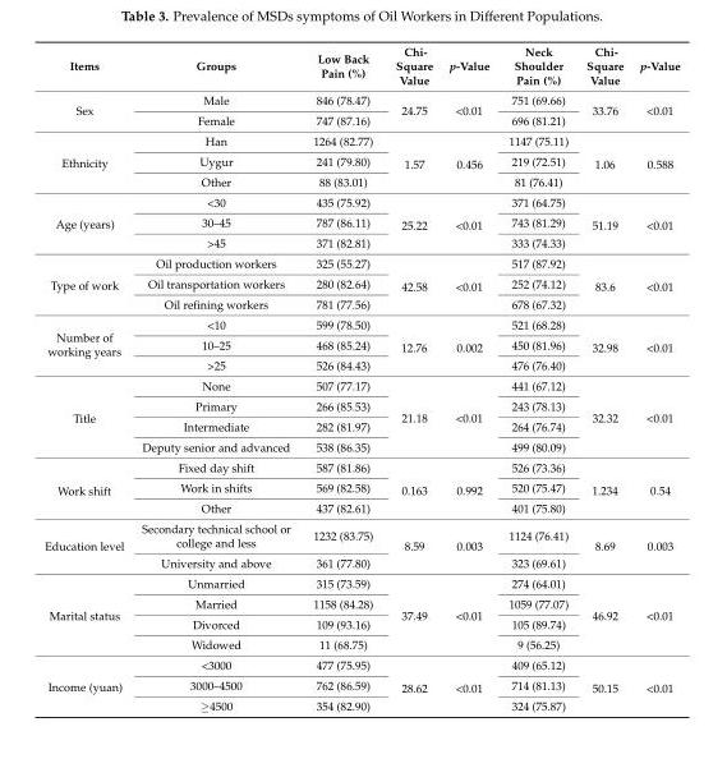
<table><thead><tr><td>Items</td><td>Groups</td><td>Low Back Pain (%)</td><td>Chi- Square Value</td><td>p-Value</td><td>Neck Shoulder Pain (%)</td><td>Chi- Square Value</td><td>p-Value</td></tr></thead><tbody><tr><td rowspan="2">Sex</td><td>Male</td><td>846 (78.47)</td><td rowspan="2">24.75</td><td rowspan="2">&lt;0.01</td><td>751 (69.66)</td><td rowspan="2">33.76</td><td rowspan="2">&lt;0.01</td></tr><tr><td>Female</td><td>747 (87.16)</td><td>696 (81.21)</td></tr><tr><td rowspan="3">Ethnicity</td><td>Han</td><td>1264 (82.77)</td><td rowspan="3">1.57</td><td rowspan="3">0.456</td><td>1147 (75.11)</td><td rowspan="3">1.06</td><td rowspan="3">0.588</td></tr><tr><td>Uygur</td><td>241 (79.80)</td><td>219 (72.51)</td></tr><tr><td>Other</td><td>88 (83.01)</td><td>81 (76.41)</td></tr><tr><td rowspan="3">Age (years)</td><td>&lt;30</td><td>435 (75.92)</td><td rowspan="3">25.22</td><td rowspan="3">&lt;0.01</td><td>371 (64.75)</td><td rowspan="3">51.19</td><td rowspan="3">&lt;0.01</td></tr><tr><td>30–45</td><td>787 (86.11)</td><td>743 (81.29)</td></tr><tr><td>&gt;45</td><td>371 (82.81)</td><td>333 (74.33)</td></tr><tr><td rowspan="3">Type of work</td><td>Oil production workers</td><td>325 (55.27)</td><td rowspan="3">42.58</td><td rowspan="3">&lt;0.01</td><td>517 (87.92)</td><td rowspan="3">83.6</td><td rowspan="3">&lt;0.01</td></tr><tr><td>Oil transportation workers</td><td>280 (82.64)</td><td>252 (74.12)</td></tr><tr><td>Oil refining workers</td><td>781 (77.56)</td><td>678 (67.32)</td></tr><tr><td rowspan="3">Number of working years</td><td>&lt;10</td><td>599 (78.50)</td><td rowspan="3">12.76</td><td rowspan="3">0.002</td><td>521 (68.28)</td><td rowspan="3">32.98</td><td rowspan="3">&lt;0.01</td></tr><tr><td>10–25</td><td>468 (85.24)</td><td>450 (81.96)</td></tr><tr><td>&gt;25</td><td>526 (84.43)</td><td>476 (76.40)</td></tr><tr><td rowspan="4">Title</td><td>None</td><td>507 (77.17)</td><td rowspan="4">21.18</td><td rowspan="4">&lt;0.01</td><td>441 (67.12)</td><td rowspan="4">32.32</td><td rowspan="4">&lt;0.01</td></tr><tr><td>Primary</td><td>266 (85.53)</td><td>243 (78.13)</td></tr><tr><td>Intermediate</td><td>282 (81.97)</td><td>264 (76.74)</td></tr><tr><td>Deputy senior and advanced</td><td>538 (86.35)</td><td>499 (80.09)</td></tr><tr><td rowspan="3">Work shift</td><td>Fixed day shift</td><td>587 (81.86)</td><td rowspan="3">0.163</td><td rowspan="3">0.992</td><td>526 (73.36)</td><td rowspan="3">1.234</td><td rowspan="3">0.54</td></tr><tr><td>Work in shifts</td><td>569 (82.58)</td><td>520 (75.47)</td></tr><tr><td>Other</td><td>437 (82.61)</td><td>401 (75.80)</td></tr><tr><td rowspan="2">Education level</td><td>Secondary technical school or college and less</td><td>1232 (83.75)</td><td rowspan="2">8.59</td><td rowspan="2">0.003</td><td>1124 (76.41)</td><td rowspan="2">8.69</td><td rowspan="2">0.003</td></tr><tr><td>University and above</td><td>361 (77.80)</td><td>323 (69.61)</td></tr><tr><td rowspan="4">Marital status</td><td>Unmarried</td><td>315 (73.59)</td><td rowspan="4">37.49</td><td rowspan="4">&lt;0.01</td><td>274 (64.01)</td><td rowspan="4">46.92</td><td rowspan="4">&lt;0.01</td></tr><tr><td>Married</td><td>1158 (84.28)</td><td>1059 (77.07)</td></tr><tr><td>Divorced</td><td>109 (93.16)</td><td>105 (89.74)</td></tr><tr><td>Widowed</td><td>11 (68.75)</td><td>9 (56.25)</td></tr><tr><td rowspan="3">Income (yuan)</td><td>&lt;3000</td><td>477 (75.95)</td><td rowspan="3">28.62</td><td rowspan="3">&lt;0.01</td><td>409 (65.12)</td><td rowspan="3">50.15</td><td rowspan="3">&lt;0.01</td></tr><tr><td>3000–4500</td><td>762 (86.59)</td><td>714 (81.13)</td></tr><tr><td>≥4500</td><td>354 (82.90)</td><td>324 (75.87)</td></tr></tbody></table>